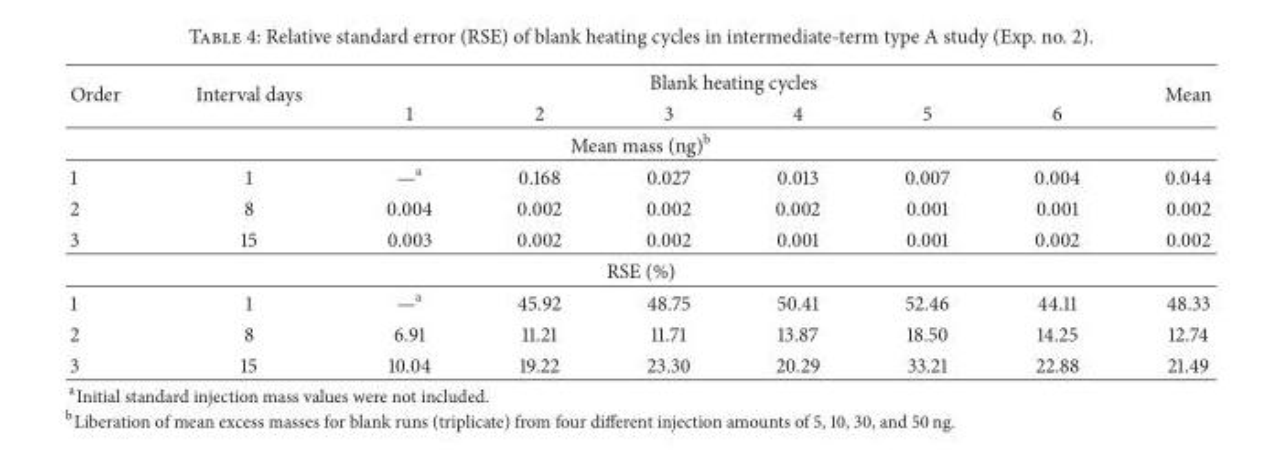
<table><thead><tr><td rowspan="2">Order</td><td rowspan="2">Interval days</td><td colspan="6">Blank heating cycles</td><td rowspan="2">Mean</td></tr><tr><td>1</td><td>2</td><td>3</td><td>4</td><td>5</td><td>6</td></tr></thead><tbody><tr><td colspan="9">Mean mass (ng)<sup>b</sup></td></tr><tr><td>1</td><td>1</td><td>—<sup>a</sup></td><td>0.168</td><td>0.027</td><td>0.013</td><td>0.007</td><td>0.004</td><td>0.044</td></tr><tr><td>2</td><td>8</td><td>0.004</td><td>0.002</td><td>0.002</td><td>0.002</td><td>0.001</td><td>0.001</td><td>0.002</td></tr><tr><td>3</td><td>15</td><td>0.003</td><td>0.002</td><td>0.002</td><td>0.001</td><td>0.001</td><td>0.002</td><td>0.002</td></tr><tr><td colspan="9">RSE (%)</td></tr><tr><td>1</td><td>1</td><td>—<sup>a</sup></td><td>45.92</td><td>48.75</td><td>50.41</td><td>52.46</td><td>44.11</td><td>48.33</td></tr><tr><td>2</td><td>8</td><td>6.91</td><td>11.21</td><td>11.71</td><td>13.87</td><td>18.50</td><td>14.25</td><td>12.74</td></tr><tr><td>3</td><td>15</td><td>10.04</td><td>19.22</td><td>23.30</td><td>20.29</td><td>33.21</td><td>22.88</td><td>21.49</td></tr></tbody></table>